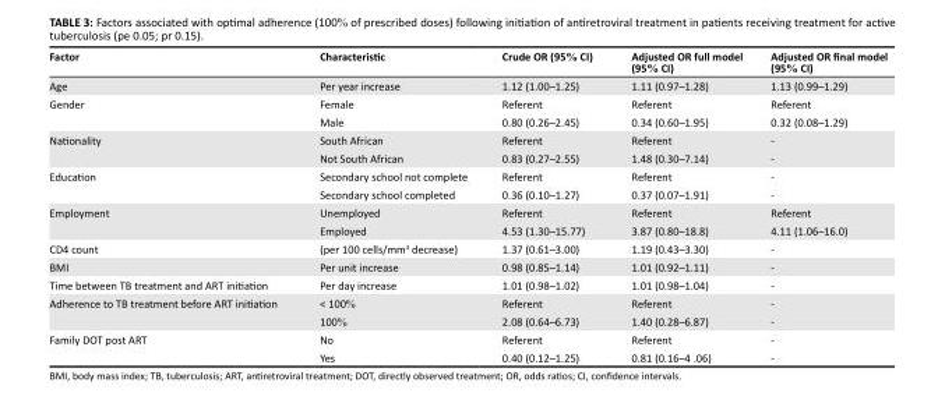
<table><thead><tr><td>Factor</td><td>Characteristic</td><td>Crude OR (95% CI)</td><td>Adjusted OR full model (95% CI)</td><td>Adjusted OR final model (95% CI)</td></tr></thead><tbody><tr><td>Age</td><td>Per year increase</td><td>1.12 (1.00–1.25)</td><td>1.11 (0.97–1.28)</td><td>1.13 (0.99–1.29)</td></tr><tr><td rowspan="2">Gender</td><td>Female</td><td>Referent</td><td>Referent</td><td>Referent</td></tr><tr><td>Male</td><td>0.80 (0.26–2.45)</td><td>0.34 (0.60–1.95)</td><td>0.32 (0.08–1.29)</td></tr><tr><td rowspan="2">Nationality</td><td>South African</td><td>Referent</td><td>Referent</td><td>-</td></tr><tr><td>Not South African</td><td>0.83 (0.27–2.55)</td><td>1.48 (0.30–7.14)</td><td>-</td></tr><tr><td rowspan="2">Education</td><td>Secondary school not complete</td><td>Referent</td><td>Referent</td><td>-</td></tr><tr><td>Secondary school completed</td><td>0.36 (0.10–1.27)</td><td>0.37 (0.07–1.91)</td><td>-</td></tr><tr><td rowspan="2">Employment</td><td>Unemployed</td><td>Referent</td><td>Referent</td><td>Referent</td></tr><tr><td>Employed</td><td>4.53 (1.30–15.77)</td><td>3.87 (0.80–18.8)</td><td>4.11 (1.06–16.0)</td></tr><tr><td>CD4 count</td><td>(per 100 cells/mm<sup>3</sup> decrease)</td><td>1.37 (0.61–3.00)</td><td>1.19 (0.43–3.30)</td><td>-</td></tr><tr><td>BMI</td><td>Per unit increase</td><td>0.98 (0.85–1.14)</td><td>1.01 (0.92–1.11)</td><td>-</td></tr><tr><td>Time between TB treatment and ART initiation</td><td>Per day increase</td><td>1.01 (0.98–1.02)</td><td>1.01 (0.98–1.04)</td><td>-</td></tr><tr><td rowspan="2">Adherence to TB treatment before ART initiation</td><td>&lt; 100%</td><td>Referent</td><td>Referent</td><td>-</td></tr><tr><td>100%</td><td>2.08 (0.64–6.73)</td><td>1.40 (0.28–6.87)</td><td>-</td></tr><tr><td rowspan="2">Family DOT post ART</td><td>No</td><td>Referent</td><td>Referent</td><td>-</td></tr><tr><td>Yes</td><td>0.40 (0.12–1.25)</td><td>0.81 (0.16–4 .06)</td><td>-</td></tr></tbody></table>